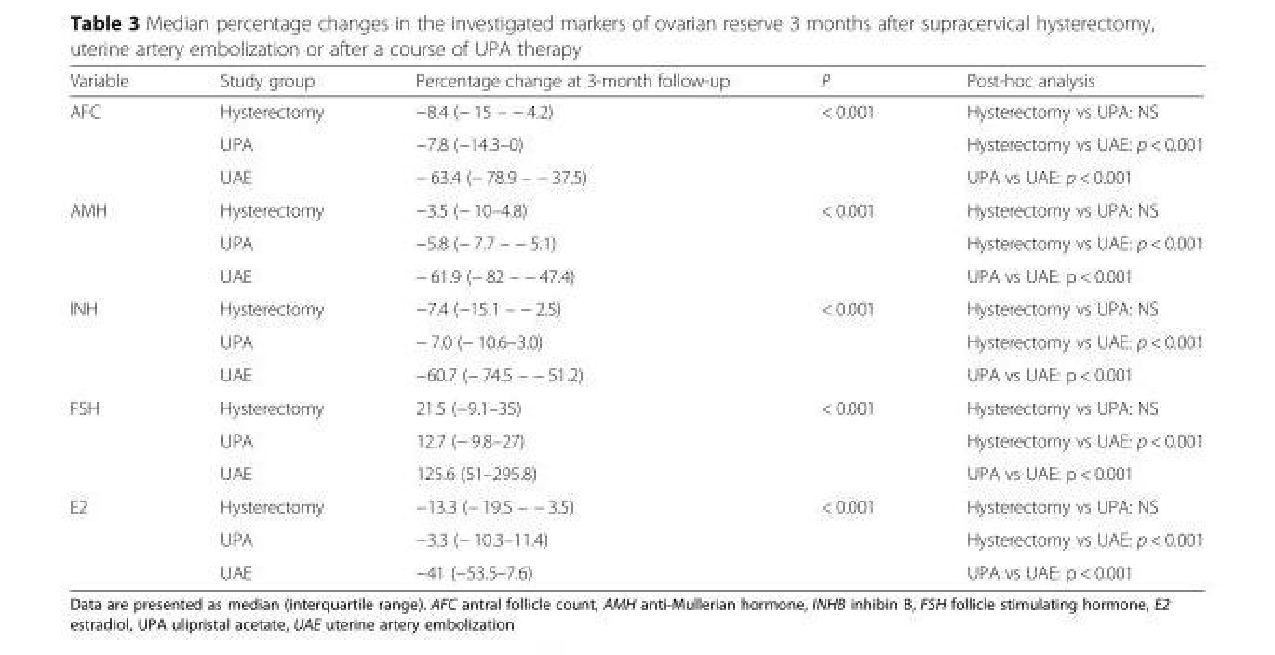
<table><thead><tr><td>Variable</td><td>Study group</td><td>Percentage change at 3-month follow-up</td><td>P</td><td>Post-hoc analysis</td></tr></thead><tbody><tr><td rowspan="3">AFC</td><td>Hysterectomy</td><td>−8.4 (− 15 – − 4.2)</td><td>&lt; 0.001</td><td>Hysterectomy vs UPA: NS</td></tr><tr><td>UPA</td><td>−7.8 (−14.3–0)</td><td></td><td>Hysterectomy vs UAE: p &lt; 0.001</td></tr><tr><td>UAE</td><td>− 63.4 (− 78.9 – − 37.5)</td><td></td><td>UPA vs UAE: p &lt; 0.001</td></tr><tr><td rowspan="3">AMH</td><td>Hysterectomy</td><td>−3.5 (− 10–4.8)</td><td>&lt; 0.001</td><td>Hysterectomy vs UPA: NS</td></tr><tr><td>UPA</td><td>−5.8 (− 7.7 – − 5.1)</td><td></td><td>Hysterectomy vs UAE: p &lt; 0.001</td></tr><tr><td>UAE</td><td>− 61.9 (− 82 – − 47.4)</td><td></td><td>UPA vs UAE: p &lt; 0.001</td></tr><tr><td rowspan="3">INH</td><td>Hysterectomy</td><td>−7.4 (−15.1 – − 2.5)</td><td>&lt; 0.001</td><td>Hysterectomy vs UPA: NS</td></tr><tr><td>UPA</td><td>− 7.0 (− 10.6–3.0)</td><td></td><td>Hysterectomy vs UAE: p &lt; 0.001</td></tr><tr><td>UAE</td><td>−60.7 (− 74.5 – − 51.2)</td><td></td><td>UPA vs UAE: p &lt; 0.001</td></tr><tr><td rowspan="3">FSH</td><td>Hysterectomy</td><td>21.5 (−9.1–35)</td><td>&lt; 0.001</td><td>Hysterectomy vs UPA: NS</td></tr><tr><td>UPA</td><td>12.7 (− 9.8–27)</td><td></td><td>Hysterectomy vs UAE: p &lt; 0.001</td></tr><tr><td>UAE</td><td>125.6 (51–295.8)</td><td></td><td>UPA vs UAE: p &lt; 0.001</td></tr><tr><td rowspan="3">E2</td><td>Hysterectomy</td><td>−13.3 (− 19.5 – − 3.5)</td><td>&lt; 0.001</td><td>Hysterectomy vs UPA: NS</td></tr><tr><td>UPA</td><td>−3.3 (− 10.3–11.4)</td><td></td><td>Hysterectomy vs UAE: p &lt; 0.001</td></tr><tr><td>UAE</td><td>−41 (−53.5–7.6)</td><td></td><td>UPA vs UAE: p &lt; 0.001</td></tr></tbody></table>